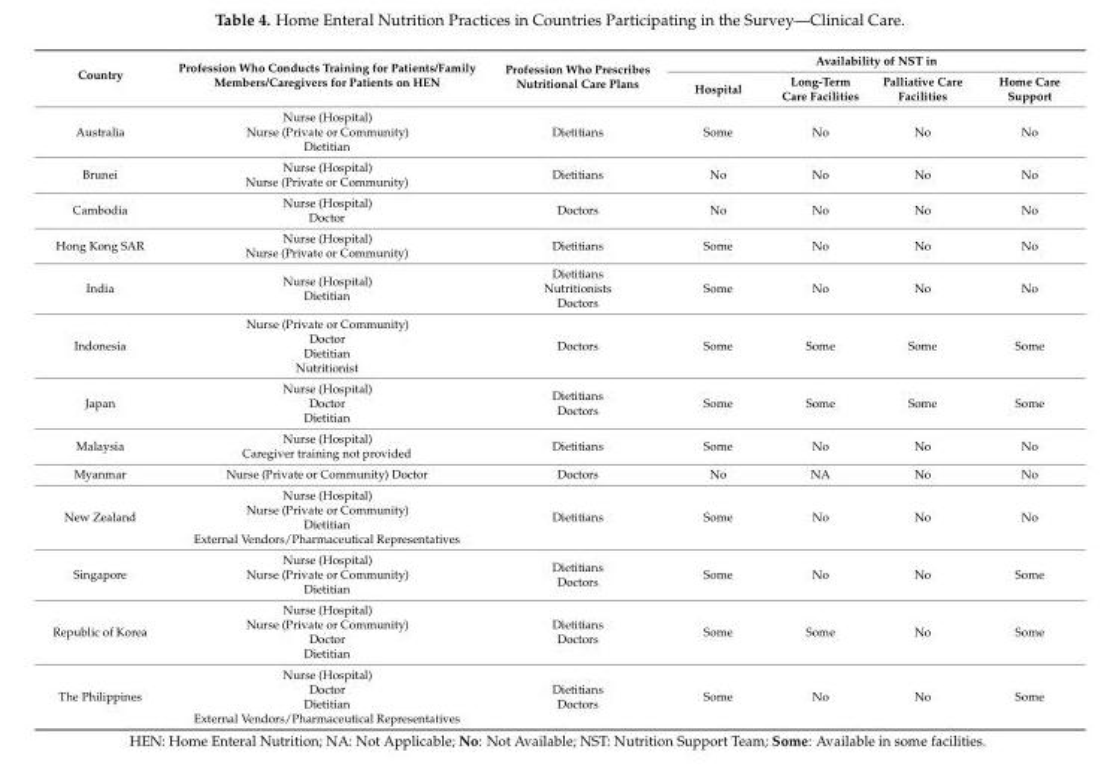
<table><thead><tr><td rowspan="2">Country</td><td rowspan="2">Profession Who Conducts Training for Patients/Family Members/Caregivers for Patients on HEN</td><td rowspan="2">Profession Who Prescribes Nutritional Care Plans</td><td colspan="4">Availability of NST in</td></tr><tr><td>Hospital</td><td>Long-Term Care Facilities</td><td>Palliative Care Facilities</td><td>Home Care Support</td></tr></thead><tbody><tr><td>Australia</td><td>Nurse (Hospital) Nurse (Private or Community) Dietitian</td><td>Dietitians</td><td>Some</td><td>No</td><td>No</td><td>No</td></tr><tr><td>Brunei</td><td>Nurse (Hospital) Nurse (Private or Community)</td><td>Dietitians</td><td>No</td><td>No</td><td>No</td><td>No</td></tr><tr><td>Cambodia</td><td>Nurse (Hospital) Doctor</td><td>Doctors</td><td>No</td><td>No</td><td>No</td><td>No</td></tr><tr><td>Hong Kong SAR</td><td>Nurse (Hospital) Nurse (Private or Community)</td><td>Dietitians</td><td>Some</td><td>No</td><td>No</td><td>No</td></tr><tr><td>India</td><td>Nurse (Hospital) Dietitian</td><td>Dietitians Nutritionists Doctors</td><td>Some</td><td>No</td><td>No</td><td>No</td></tr><tr><td>Indonesia</td><td>Nurse (Private or Community) Doctor Dietitian Nutritionist</td><td>Doctors</td><td>Some</td><td>Some</td><td>Some</td><td>Some</td></tr><tr><td>Japan</td><td>Nurse (Hospital) Doctor Dietitian</td><td>Dietitians Doctors</td><td>Some</td><td>Some</td><td>Some</td><td>Some</td></tr><tr><td>Malaysia</td><td>Nurse (Hospital) Caregiver training not provided</td><td>Dietitians</td><td>Some</td><td>No</td><td>No</td><td>No</td></tr><tr><td>Myanmar</td><td>Nurse (Private or Community) Doctor</td><td>Doctors</td><td>No</td><td>NA</td><td>No</td><td>No</td></tr><tr><td>New Zealand</td><td>Nurse (Hospital) Nurse (Private or Community) Dietitian External Vendors/Pharmaceutical Representatives</td><td>Dietitians</td><td>Some</td><td>No</td><td>No</td><td>No</td></tr><tr><td>Singapore</td><td>Nurse (Hospital) Nurse (Private or Community) Dietitian</td><td>Dietitians Doctors</td><td>Some</td><td>No</td><td>No</td><td>Some</td></tr><tr><td>Republic of Korea</td><td>Nurse (Hospital) Nurse (Private or Community) Doctor Dietitian</td><td>Dietitians Doctors</td><td>Some</td><td>Some</td><td>No</td><td>Some</td></tr><tr><td>The Philippines</td><td>Nurse (Hospital) Doctor Dietitian External Vendors/Pharmaceutical Representatives</td><td>Dietitians Doctors</td><td>Some</td><td>No</td><td>No</td><td>Some</td></tr></tbody></table>